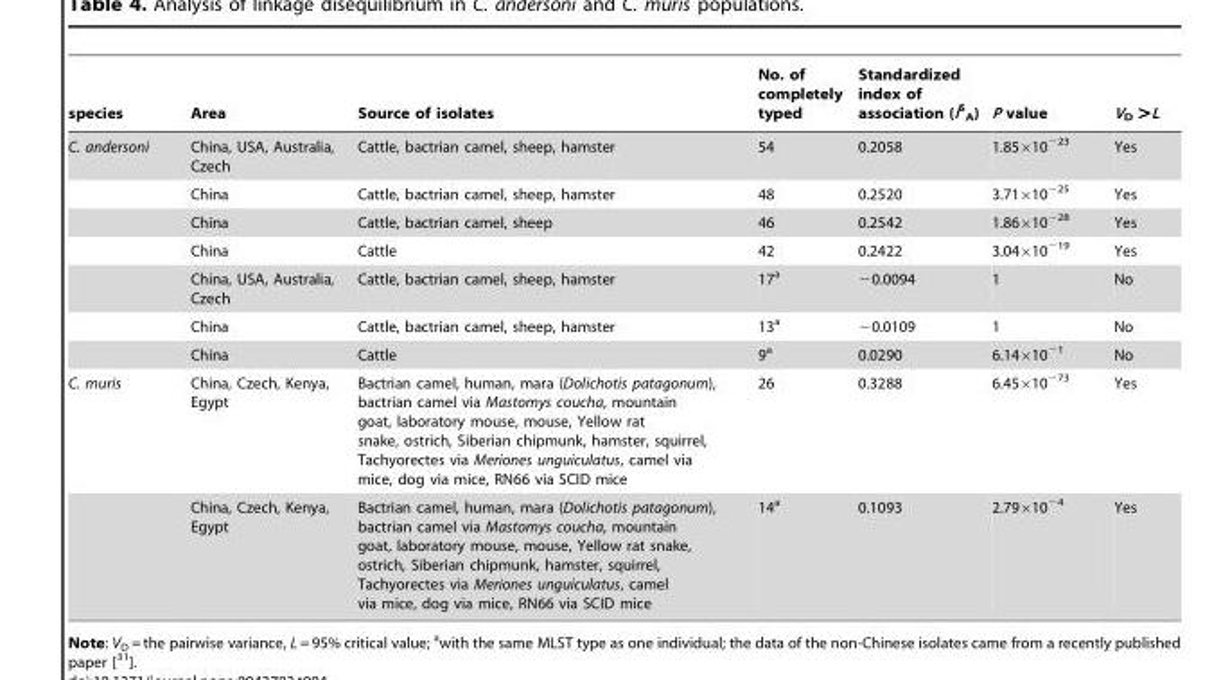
<table><thead><tr><td>species</td><td>Area</td><td>Source of isolates</td><td>No. of completely typed</td><td>Standardized index of association (I<sup>S</sup> <sub>A</sub>)</td><td>P value</td><td>V<sub>D</sub> &gt;L</td></tr></thead><tbody><tr><td rowspan="7">C. andersoni</td><td>China, USA, Australia, Czech</td><td>Cattle, bactrian camel, sheep, hamster</td><td>54</td><td>0.2058</td><td>1.85×10<sup>−23</sup></td><td>Yes</td></tr><tr><td>China</td><td>Cattle, bactrian camel, sheep, hamster</td><td>48</td><td>0.2520</td><td>3.71×10<sup>−25</sup></td><td>Yes</td></tr><tr><td>China</td><td>Cattle, bactrian camel, sheep</td><td>46</td><td>0.2542</td><td>1.86×10<sup>−28</sup></td><td>Yes</td></tr><tr><td>China</td><td>Cattle</td><td>42</td><td>0.2422</td><td>3.04×10<sup>−19</sup></td><td>Yes</td></tr><tr><td>China, USA, Australia, Czech</td><td>Cattle, bactrian camel, sheep, hamster</td><td>17<sup>a</sup></td><td>−0.0094</td><td>1</td><td>No</td></tr><tr><td>China</td><td>Cattle, bactrian camel, sheep, hamster</td><td>13<sup>a</sup></td><td>−0.0109</td><td>1</td><td>No</td></tr><tr><td>China</td><td>Cattle</td><td>9<sup>a</sup></td><td>0.0290</td><td>6.14×10<sup>−1</sup></td><td>No</td></tr><tr><td rowspan="2">C. muris</td><td>China, Czech, Kenya, Egypt</td><td>Bactrian camel, human, mara (Dolichotis patagonum), bactrian camel via Mastomys coucha, mountain goat, laboratory mouse, mouse, Yellow rat snake, ostrich, Siberian chipmunk, hamster, squirrel, Tachyorectes via Meriones unguiculatus, camel via mice, dog via mice, RN66 via SCID mice</td><td>26</td><td>0.3288</td><td>6.45×10<sup>−73</sup></td><td>Yes</td></tr><tr><td>China, Czech, Kenya, Egypt</td><td>Bactrian camel, human, mara (Dolichotis patagonum), bactrian camel via Mastomys coucha, mountain goat, laboratory mouse, mouse, Yellow rat snake, ostrich, Siberian chipmunk, hamster, squirrel, Tachyorectes via Meriones unguiculatus, camel via mice, dog via mice, RN66 via SCID mice</td><td>14<sup>a</sup></td><td>0.1093</td><td>2.79×10<sup>−4</sup></td><td>Yes</td></tr></tbody></table>